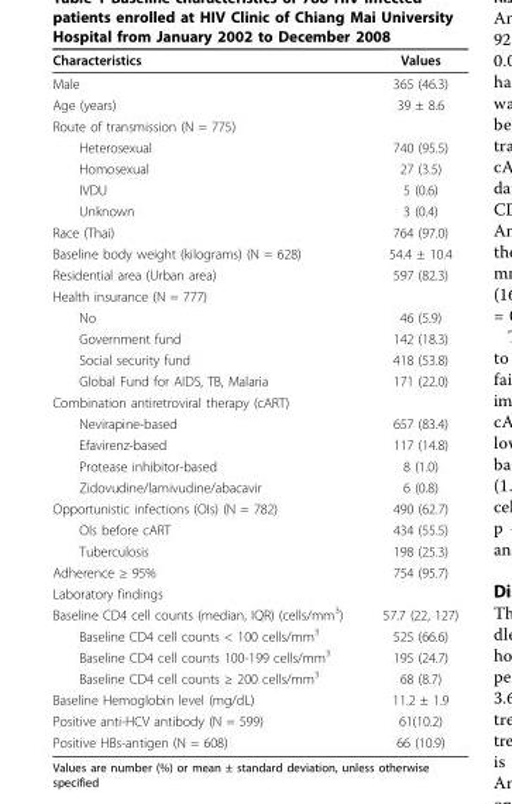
<table><thead><tr><td>Characteristics</td><td>Values</td></tr></thead><tbody><tr><td>Male</td><td>365 (46.3)</td></tr><tr><td>Age (years)</td><td>39 ± 8.6</td></tr><tr><td colspan="2">Route of transmission (N = 775)</td></tr><tr><td>Heterosexual</td><td>740 (95.5)</td></tr><tr><td>Homosexual</td><td>27 (3.5)</td></tr><tr><td>IVDU</td><td>5 (0.6)</td></tr><tr><td>Unknown</td><td>3 (0.4)</td></tr><tr><td>Race (Thai)</td><td>764 (97.0)</td></tr><tr><td>Baseline body weight (kilograms) (N = 628)</td><td>54.4 ± 10.4</td></tr><tr><td>Residential area (Urban area)</td><td>597 (82.3)</td></tr><tr><td colspan="2">Health insurance (N = 777)</td></tr><tr><td>No</td><td>46 (5.9)</td></tr><tr><td>Government fund</td><td>142 (18.3)</td></tr><tr><td>Social security fund</td><td>418 (53.8)</td></tr><tr><td>Global Fund for AIDS, TB, Malaria</td><td>171 (22.0)</td></tr><tr><td colspan="2">Combination antiretroviral therapy (cART)</td></tr><tr><td>Nevirapine-based</td><td>657 (83.4)</td></tr><tr><td>Efavirenz-based</td><td>117 (14.8)</td></tr><tr><td>Protease inhibitor-based</td><td>8 (1.0)</td></tr><tr><td>Zidovudine/lamivudine/abacavir</td><td>6 (0.8)</td></tr><tr><td>Opportunistic infections (OIs) (N = 782)</td><td>490 (62.7)</td></tr><tr><td>OIs before cART</td><td>434 (55.5)</td></tr><tr><td>Tuberculosis</td><td>198 (25.3)</td></tr><tr><td>Adherence ≥ 95%</td><td>754 (95.7)</td></tr><tr><td colspan="2">Laboratory findings</td></tr><tr><td>Baseline CD4 cell counts (median, IQR) (cells/mm<sup>3</sup>)</td><td>57.7 (22, 127)</td></tr><tr><td>Baseline CD4 cell counts &lt; 100 cells/mm<sup>3</sup></td><td>525 (66.6)</td></tr><tr><td>Baseline CD4 cell counts 100-199 cells/mm<sup>3</sup></td><td>195 (24.7)</td></tr><tr><td>Baseline CD4 cell counts ≥ 200 cells/mm<sup>3</sup></td><td>68 (8.7)</td></tr><tr><td>Baseline Hemoglobin level (mg/dL)</td><td>11.2 ± 1.9</td></tr><tr><td>Positive anti-HCV antibody (N = 599)</td><td>61(10.2)</td></tr><tr><td>Positive HBs-antigen (N = 608)</td><td>66 (10.9)</td></tr></tbody></table>